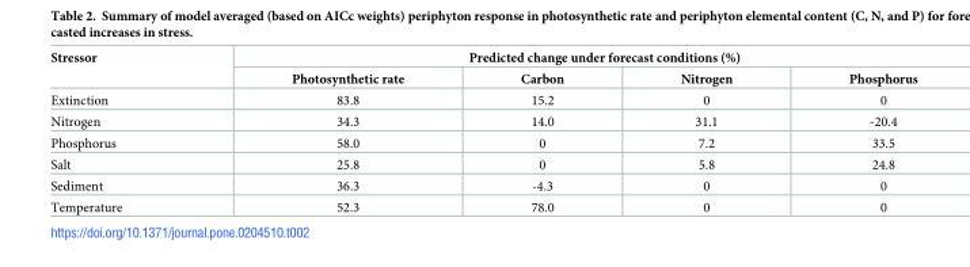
<table><thead><tr><td rowspan="2">Stressor</td><td colspan="4">Predicted change under forecast conditions (%)</td></tr><tr><td>Photosynthetic rate</td><td>Carbon</td><td>Nitrogen</td><td>Phosphorus</td></tr></thead><tbody><tr><td>Extinction</td><td>83.8</td><td>15.2</td><td>0</td><td>0</td></tr><tr><td>Nitrogen</td><td>34.3</td><td>14.0</td><td>31.1</td><td>-20.4</td></tr><tr><td>Phosphorus</td><td>58.0</td><td>0</td><td>7.2</td><td>33.5</td></tr><tr><td>Salt</td><td>25.8</td><td>0</td><td>5.8</td><td>24.8</td></tr><tr><td>Sediment</td><td>36.3</td><td>-4.3</td><td>0</td><td>0</td></tr><tr><td>Temperature</td><td>52.3</td><td>78.0</td><td>0</td><td>0</td></tr></tbody></table>